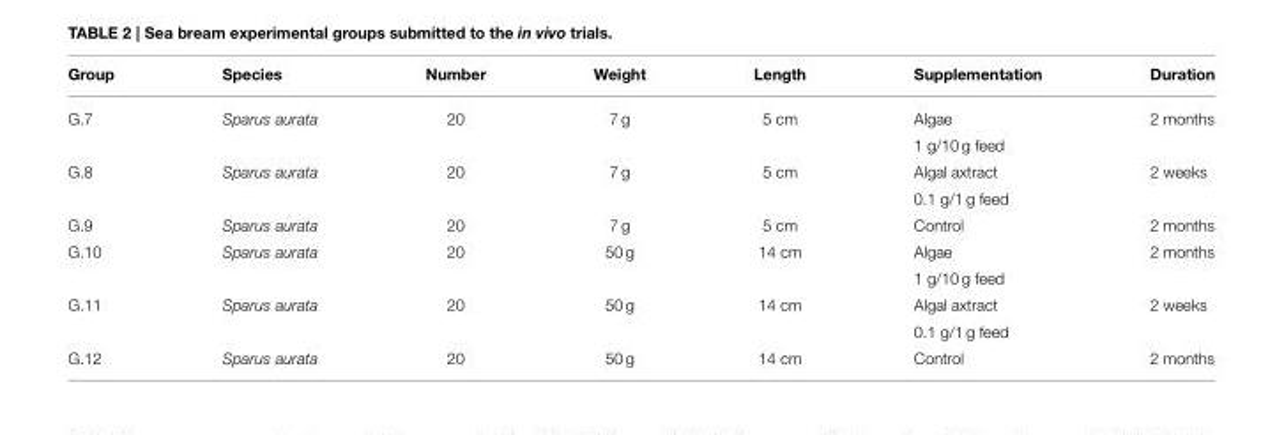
<table><thead><tr><td>Group</td><td>Species</td><td>Number</td><td>Weight</td><td>Length</td><td>Supplementation</td><td>Duration</td></tr></thead><tbody><tr><td rowspan="2">G.7</td><td>Sparus aurata</td><td>20</td><td>7 g</td><td>5 cm</td><td>Algae</td><td>2 months</td></tr><tr><td></td><td></td><td></td><td></td><td>1 g/10 g feed</td><td></td></tr><tr><td rowspan="2">G.8</td><td>Sparus aurata</td><td>20</td><td>7 g</td><td>5 cm</td><td>Algal axtract</td><td>2 weeks</td></tr><tr><td></td><td></td><td></td><td></td><td>0.1 g/1 g feed</td><td></td></tr><tr><td>G.9</td><td>Sparus aurata</td><td>20</td><td>7 g</td><td>5 cm</td><td>Control</td><td>2 months</td></tr><tr><td rowspan="2">G.10</td><td>Sparus aurata</td><td>20</td><td>50 g</td><td>14 cm</td><td>Algae</td><td>2 months</td></tr><tr><td></td><td></td><td></td><td></td><td>1 g/10 g feed</td><td></td></tr><tr><td rowspan="2">G.11</td><td>Sparus aurata</td><td>20</td><td>50 g</td><td>14 cm</td><td>Algal axtract</td><td>2 weeks</td></tr><tr><td></td><td></td><td></td><td></td><td>0.1 g/1 g feed</td><td></td></tr><tr><td>G.12</td><td>Sparus aurata</td><td>20</td><td>50 g</td><td>14 cm</td><td>Control</td><td>2 months</td></tr></tbody></table>